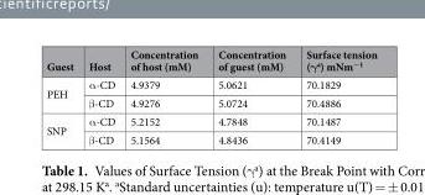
<table><thead><tr><td>Guest</td><td>Host</td><td>Concentration of host (mM)</td><td>Concentration of guest (mM)</td><td>Surface tension (γ<sup>a</sup>) mNm<sup>−1</sup></td></tr></thead><tbody><tr><td rowspan="2">PEH</td><td>α-CD</td><td>4.9379</td><td>5.0621</td><td>70.1829</td></tr><tr><td>β-CD</td><td>4.9276</td><td>5.0724</td><td>70.4886</td></tr><tr><td rowspan="2">SNP</td><td>α-CD</td><td>5.2152</td><td>4.7848</td><td>70.1487</td></tr><tr><td>β-CD</td><td>5.1564</td><td>4.8436</td><td>70.4149</td></tr></tbody></table>